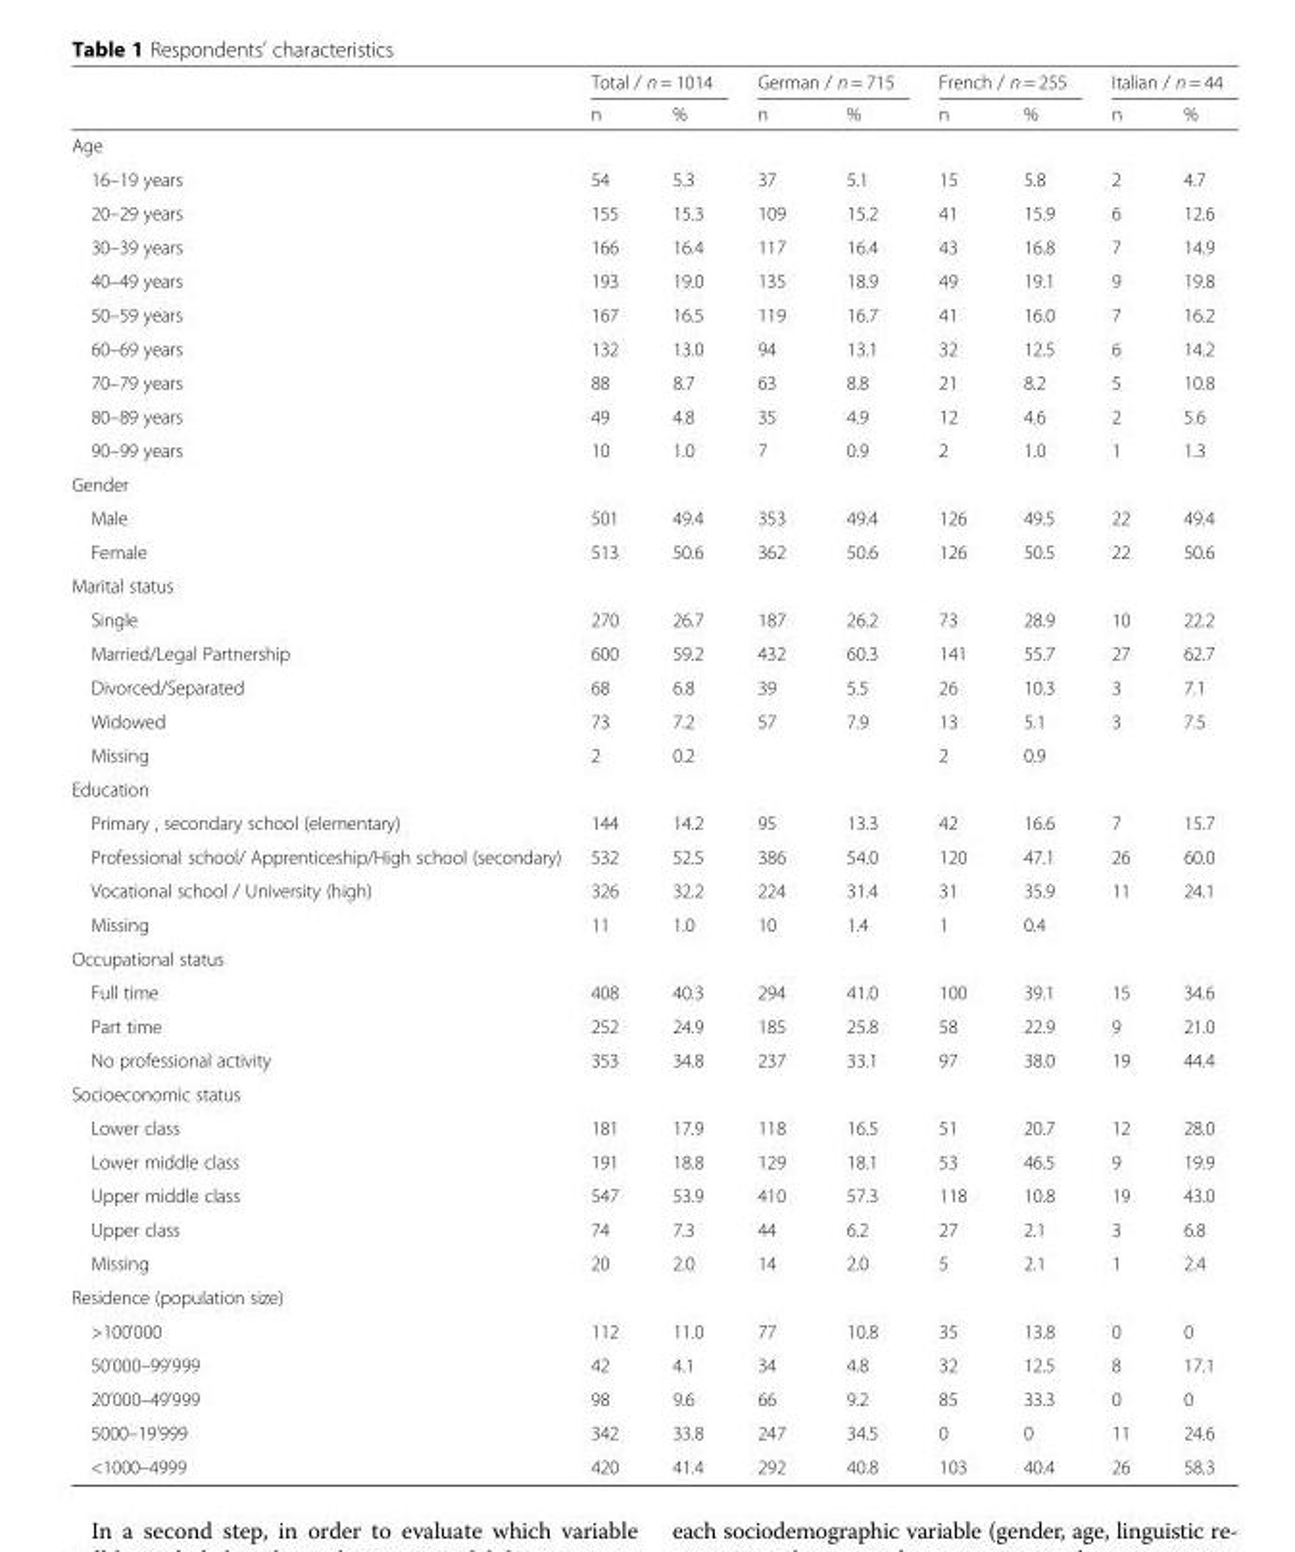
<table><thead><tr><td rowspan="2"></td><td colspan="2">Total / n = 1014</td><td colspan="2">German / n = 715</td><td colspan="2">French / n = 255</td><td colspan="2">Italian / n = 44</td></tr><tr><td>n</td><td>%</td><td>n</td><td>%</td><td>n</td><td>%</td><td>n</td><td>%</td></tr></thead><tbody><tr><td colspan="9">Age</td></tr><tr><td>16–19 years</td><td>54</td><td>5.3</td><td>37</td><td>5.1</td><td>15</td><td>5.8</td><td>2</td><td>4.7</td></tr><tr><td>20–29 years</td><td>155</td><td>15.3</td><td>109</td><td>15.2</td><td>41</td><td>15.9</td><td>6</td><td>12.6</td></tr><tr><td>30–39 years</td><td>166</td><td>16.4</td><td>117</td><td>16.4</td><td>43</td><td>16.8</td><td>7</td><td>14.9</td></tr><tr><td>40–49 years</td><td>193</td><td>19.0</td><td>135</td><td>18.9</td><td>49</td><td>19.1</td><td>9</td><td>19.8</td></tr><tr><td>50–59 years</td><td>167</td><td>16.5</td><td>119</td><td>16.7</td><td>41</td><td>16.0</td><td>7</td><td>16.2</td></tr><tr><td>60–69 years</td><td>132</td><td>13.0</td><td>94</td><td>13.1</td><td>32</td><td>12.5</td><td>6</td><td>14.2</td></tr><tr><td>70–79 years</td><td>88</td><td>8.7</td><td>63</td><td>8.8</td><td>21</td><td>8.2</td><td>5</td><td>10.8</td></tr><tr><td>80–89 years</td><td>49</td><td>4.8</td><td>35</td><td>4.9</td><td>12</td><td>4.6</td><td>2</td><td>5.6</td></tr><tr><td>90–99 years</td><td>10</td><td>1.0</td><td>7</td><td>0.9</td><td>2</td><td>1.0</td><td>1</td><td>1.3</td></tr><tr><td colspan="9">Gender</td></tr><tr><td>Male</td><td>501</td><td>49.4</td><td>353</td><td>49.4</td><td>126</td><td>49.5</td><td>22</td><td>49.4</td></tr><tr><td>Female</td><td>513</td><td>50.6</td><td>362</td><td>50.6</td><td>126</td><td>50.5</td><td>22</td><td>50.6</td></tr><tr><td colspan="9">Marital status</td></tr><tr><td>Single</td><td>270</td><td>26.7</td><td>187</td><td>26.2</td><td>73</td><td>28.9</td><td>10</td><td>22.2</td></tr><tr><td>Married/Legal Partnership</td><td>600</td><td>59.2</td><td>432</td><td>60.3</td><td>141</td><td>55.7</td><td>27</td><td>62.7</td></tr><tr><td>Divorced/Separated</td><td>68</td><td>6.8</td><td>39</td><td>5.5</td><td>26</td><td>10.3</td><td>3</td><td>7.1</td></tr><tr><td>Widowed</td><td>73</td><td>7.2</td><td>57</td><td>7.9</td><td>13</td><td>5.1</td><td>3</td><td>7.5</td></tr><tr><td>Missing</td><td>2</td><td>0.2</td><td></td><td></td><td>2</td><td>0.9</td><td></td><td></td></tr><tr><td colspan="9">Education</td></tr><tr><td>Primary , secondary school (elementary)</td><td>144</td><td>14.2</td><td>95</td><td>13.3</td><td>42</td><td>16.6</td><td>7</td><td>15.7</td></tr><tr><td>Professional school/ Apprenticeship/High school (secondary)</td><td>532</td><td>52.5</td><td>386</td><td>54.0</td><td>120</td><td>47.1</td><td>26</td><td>60.0</td></tr><tr><td>Vocational school / University (high)</td><td>326</td><td>32.2</td><td>224</td><td>31.4</td><td>31</td><td>35.9</td><td>11</td><td>24.1</td></tr><tr><td>Missing</td><td>11</td><td>1.0</td><td>10</td><td>1.4</td><td>1</td><td>0.4</td><td></td><td></td></tr><tr><td colspan="9">Occupational status</td></tr><tr><td>Full time</td><td>408</td><td>40.3</td><td>294</td><td>41.0</td><td>100</td><td>39.1</td><td>15</td><td>34.6</td></tr><tr><td>Part time</td><td>252</td><td>24.9</td><td>185</td><td>25.8</td><td>58</td><td>22.9</td><td>9</td><td>21.0</td></tr><tr><td>No professional activity</td><td>353</td><td>34.8</td><td>237</td><td>33.1</td><td>97</td><td>38.0</td><td>19</td><td>44.4</td></tr><tr><td colspan="9">Socioeconomic status</td></tr><tr><td>Lower class</td><td>181</td><td>17.9</td><td>118</td><td>16.5</td><td>51</td><td>20.7</td><td>12</td><td>28.0</td></tr><tr><td>Lower middle class</td><td>191</td><td>18.8</td><td>129</td><td>18.1</td><td>53</td><td>46.5</td><td>9</td><td>19.9</td></tr><tr><td>Upper middle class</td><td>547</td><td>53.9</td><td>410</td><td>57.3</td><td>118</td><td>10.8</td><td>19</td><td>43.0</td></tr><tr><td>Upper class</td><td>74</td><td>7.3</td><td>44</td><td>6.2</td><td>27</td><td>2.1</td><td>3</td><td>6.8</td></tr><tr><td>Missing</td><td>20</td><td>2.0</td><td>14</td><td>2.0</td><td>5</td><td>2.1</td><td>1</td><td>2.4</td></tr><tr><td colspan="9">Residence (population size)</td></tr><tr><td>&gt;100’000</td><td>112</td><td>11.0</td><td>77</td><td>10.8</td><td>35</td><td>13.8</td><td>0</td><td>0</td></tr><tr><td>50’000–99’999</td><td>42</td><td>4.1</td><td>34</td><td>4.8</td><td>32</td><td>12.5</td><td>8</td><td>17.1</td></tr><tr><td>20’000–49’999</td><td>98</td><td>9.6</td><td>66</td><td>9.2</td><td>85</td><td>33.3</td><td>0</td><td>0</td></tr><tr><td>5000–19’999</td><td>342</td><td>33.8</td><td>247</td><td>34.5</td><td>0</td><td>0</td><td>11</td><td>24.6</td></tr><tr><td>&lt;1000–4999</td><td>420</td><td>41.4</td><td>292</td><td>40.8</td><td>103</td><td>40.4</td><td>26</td><td>58.3</td></tr></tbody></table>